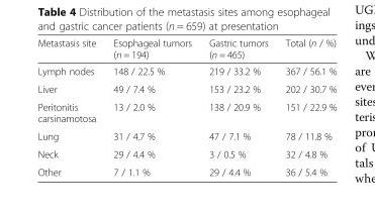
<table><thead><tr><td>Metastasis site</td><td>Esophageal tumors (n = 194)</td><td>Gastric tumors (n = 465)</td><td>Total (n / %)</td></tr></thead><tbody><tr><td>Lymph nodes</td><td>148 / 22.5 %</td><td>219 / 33.2 %</td><td>367 / 56.1 %</td></tr><tr><td>Liver</td><td>49 / 7.4 %</td><td>153 / 23.2 %</td><td>202 / 30.7 %</td></tr><tr><td>Peritonitis carsinamotosa</td><td>13 / 2.0 %</td><td>138 / 20.9 %</td><td>151 / 22.9 %</td></tr><tr><td>Lung</td><td>31 / 4.7 %</td><td>47 / 7.1 %</td><td>78 / 11.8 %</td></tr><tr><td>Neck</td><td>29 / 4.4 %</td><td>3 / 0.5 %</td><td>32 / 4.8 %</td></tr><tr><td>Other</td><td>7 / 1.1 %</td><td>29 / 4.4 %</td><td>36 / 5.4 %</td></tr></tbody></table>